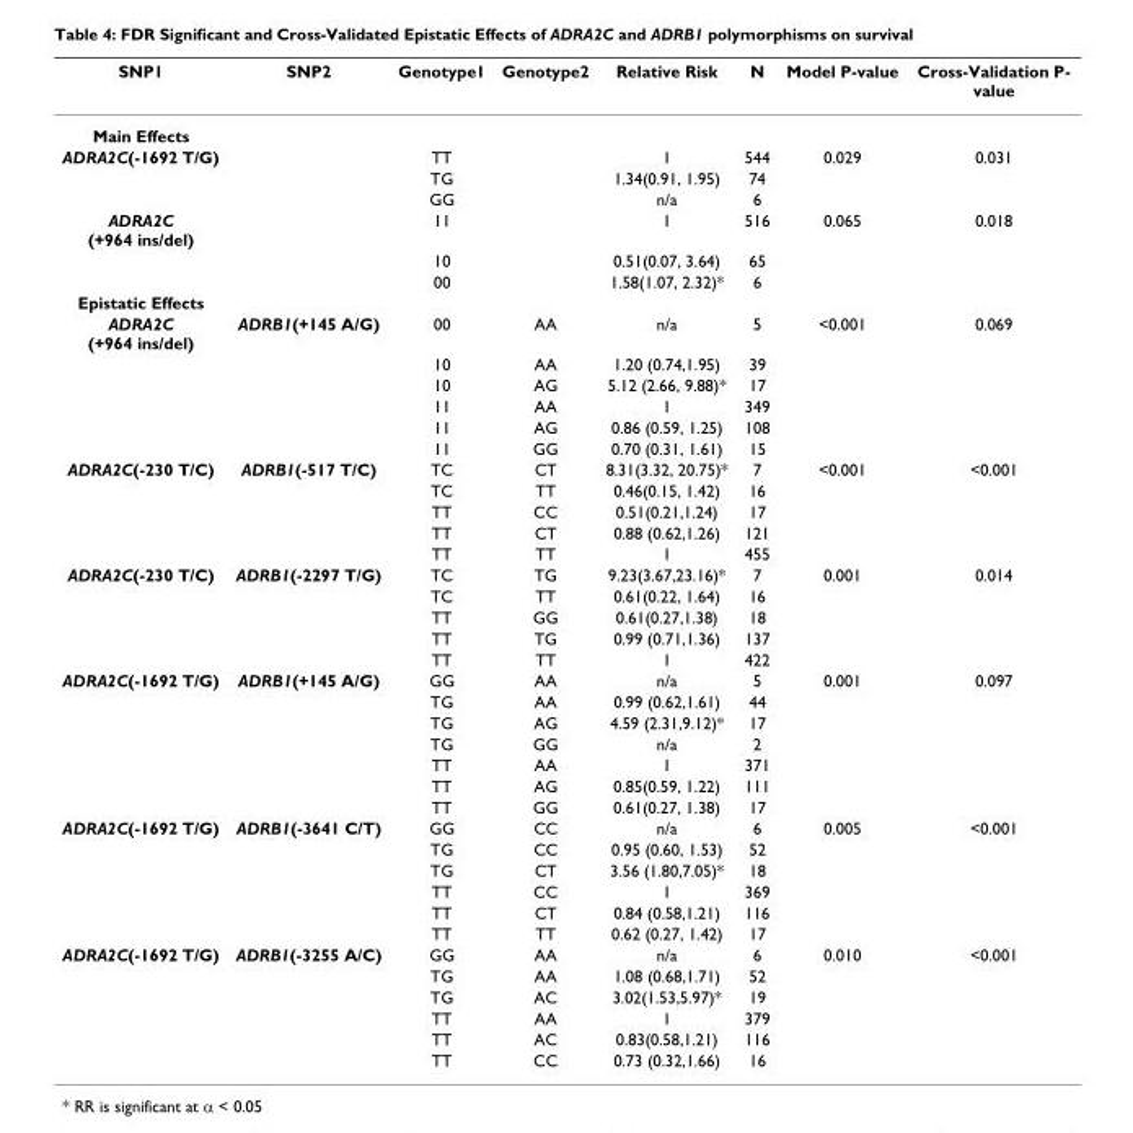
<table><thead><tr><td>SNP1</td><td>SNP2</td><td>Genotype1</td><td>Genotype2</td><td>Relative Risk</td><td>N</td><td>Model P-value</td><td>Cross-Validation P- value</td></tr></thead><tbody><tr><td colspan="8">Main Effects</td></tr><tr><td rowspan="3">ADRA2C(-1692 T/G)</td><td></td><td>TT</td><td></td><td>1</td><td>544</td><td>0.029</td><td>0.031</td></tr><tr><td></td><td>TG</td><td></td><td>1.34(0.91, 1.95)</td><td>74</td><td></td><td></td></tr><tr><td></td><td>GG</td><td></td><td>n/a</td><td>6</td><td></td><td></td></tr><tr><td rowspan="3">ADRA2C (+964 ins/del)</td><td></td><td>11</td><td></td><td>1</td><td>516</td><td>0.065</td><td>0.018</td></tr><tr><td></td><td>10</td><td></td><td>0.51(0.07, 3.64)</td><td>65</td><td></td><td></td></tr><tr><td></td><td>00</td><td></td><td>1.58(1.07, 2.32)*</td><td>6</td><td></td><td></td></tr><tr><td colspan="8">Epistatic Effects</td></tr><tr><td rowspan="6">ADRA2C (+964 ins/del)</td><td>ADRB1(+145 A/G)</td><td>00</td><td>AA</td><td>n/a</td><td>5</td><td>&lt;0.001</td><td>0.069</td></tr><tr><td></td><td>10</td><td>AA</td><td>1.20 (0.74,1.95)</td><td>39</td><td></td><td></td></tr><tr><td></td><td>10</td><td>AG</td><td>5.12 (2.66, 9.88)*</td><td>17</td><td></td><td></td></tr><tr><td></td><td>11</td><td>AA</td><td>1</td><td>349</td><td></td><td></td></tr><tr><td></td><td>11</td><td>AG</td><td>0.86 (0.59, 1.25)</td><td>108</td><td></td><td></td></tr><tr><td></td><td>11</td><td>GG</td><td>0.70 (0.31, 1.61)</td><td>15</td><td></td><td></td></tr><tr><td rowspan="5">ADRA2C(-230 T/C)</td><td>ADRB1(-517 T/C)</td><td>TC</td><td>CT</td><td>8.31(3.32, 20.75)*</td><td>7</td><td>&lt;0.001</td><td>&lt;0.001</td></tr><tr><td></td><td>TC</td><td>TT</td><td>0.46(0.15, 1.42)</td><td>16</td><td></td><td></td></tr><tr><td></td><td>TT</td><td>CC</td><td>0.51(0.21,1.24)</td><td>17</td><td></td><td></td></tr><tr><td></td><td>TT</td><td>CT</td><td>0.88 (0.62,1.26)</td><td>121</td><td></td><td></td></tr><tr><td></td><td>TT</td><td>TT</td><td>1</td><td>455</td><td></td><td></td></tr><tr><td rowspan="5">ADRA2C(-230 T/C)</td><td>ADRB1(-2297 T/G)</td><td>TC</td><td>TG</td><td>9.23(3.67,23.16)*</td><td>7</td><td>0.001</td><td>0.014</td></tr><tr><td></td><td>TC</td><td>TT</td><td>0.61(0.22, 1.64)</td><td>16</td><td></td><td></td></tr><tr><td></td><td>TT</td><td>GG</td><td>0.61(0.27,1.38)</td><td>18</td><td></td><td></td></tr><tr><td></td><td>TT</td><td>TG</td><td>0.99 (0.71,1.36)</td><td>137</td><td></td><td></td></tr><tr><td></td><td>TT</td><td>TT</td><td>1</td><td>422</td><td></td><td></td></tr><tr><td rowspan="7">ADRA2C(-1692 T/G)</td><td>ADRB1(+145 A/G)</td><td>GG</td><td>AA</td><td>n/a</td><td>5</td><td>0.001</td><td>0.097</td></tr><tr><td></td><td>TG</td><td>AA</td><td>0.99 (0.62,1.61)</td><td>44</td><td></td><td></td></tr><tr><td></td><td>TG</td><td>AG</td><td>4.59 (2.31,9.12)*</td><td>17</td><td></td><td></td></tr><tr><td></td><td>TG</td><td>GG</td><td>n/a</td><td>2</td><td></td><td></td></tr><tr><td></td><td>TT</td><td>AA</td><td>1</td><td>371</td><td></td><td></td></tr><tr><td></td><td>TT</td><td>AG</td><td>0.85(0.59, 1.22)</td><td>111</td><td></td><td></td></tr><tr><td></td><td>TT</td><td>GG</td><td>0.61(0.27, 1.38)</td><td>17</td><td></td><td></td></tr><tr><td rowspan="6">ADRA2C(-1692 T/G)</td><td>ADRB1(-3641 C/T)</td><td>GG</td><td>CC</td><td>n/a</td><td>6</td><td>0.005</td><td>&lt;0.001</td></tr><tr><td></td><td>TG</td><td>CC</td><td>0.95 (0.60, 1.53)</td><td>52</td><td></td><td></td></tr><tr><td></td><td>TG</td><td>CT</td><td>3.56 (1.80,7.05)*</td><td>18</td><td></td><td></td></tr><tr><td></td><td>TT</td><td>CC</td><td>1</td><td>369</td><td></td><td></td></tr><tr><td></td><td>TT</td><td>CT</td><td>0.84 (0.58,1.21)</td><td>116</td><td></td><td></td></tr><tr><td></td><td>TT</td><td>TT</td><td>0.62 (0.27, 1.42)</td><td>17</td><td></td><td></td></tr><tr><td rowspan="6">ADRA2C(-1692 T/G)</td><td>ADRB1(-3255 A/C)</td><td>GG</td><td>AA</td><td>n/a</td><td>6</td><td>0.010</td><td>&lt;0.001</td></tr><tr><td></td><td>TG</td><td>AA</td><td>1.08 (0.68,1.71)</td><td>52</td><td></td><td></td></tr><tr><td></td><td>TG</td><td>AC</td><td>3.02(1.53,5.97)*</td><td>19</td><td></td><td></td></tr><tr><td></td><td>TT</td><td>AA</td><td>1</td><td>379</td><td></td><td></td></tr><tr><td></td><td>TT</td><td>AC</td><td>0.83(0.58,1.21)</td><td>116</td><td></td><td></td></tr><tr><td></td><td>TT</td><td>CC</td><td>0.73 (0.32,1.66)</td><td>16</td><td></td><td></td></tr></tbody></table>